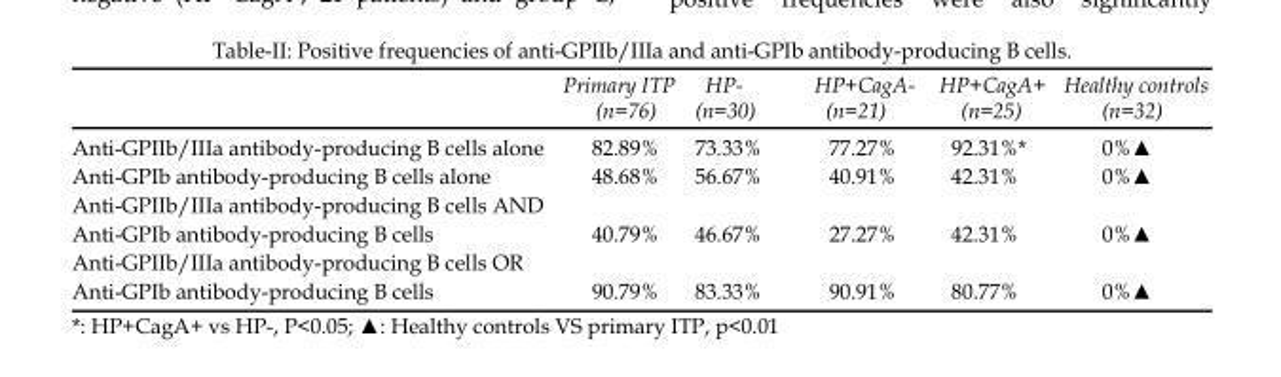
<table><thead><tr><td></td><td>Primary ITP (n=76)</td><td>HP- (n=30)</td><td>HP+CagA- (n=21)</td><td>HP+CagA+ (n=25)</td><td>Healthy controls (n=32)</td></tr></thead><tbody><tr><td>Anti-GPIIb/IIIa antibody-producing B cells alone</td><td>82.89%</td><td>73.33%</td><td>77.27%</td><td>92.31%*</td><td>0%▲</td></tr><tr><td>Anti-GPIb antibody-producing B cells alone</td><td>48.68%</td><td>56.67%</td><td>40.91%</td><td>42.31%</td><td>0%▲</td></tr><tr><td>Anti-GPIIb/IIIa antibody-producing B cells AND Anti-GPIb antibody-producing B cells</td><td>40.79%</td><td>46.67%</td><td>27.27%</td><td>42.31%</td><td>0%▲</td></tr><tr><td>Anti-GPIIb/IIIa antibody-producing B cells OR Anti-GPIb antibody-producing B cells</td><td>90.79%</td><td>83.33%</td><td>90.91%</td><td>80.77%</td><td>0%▲</td></tr></tbody></table>